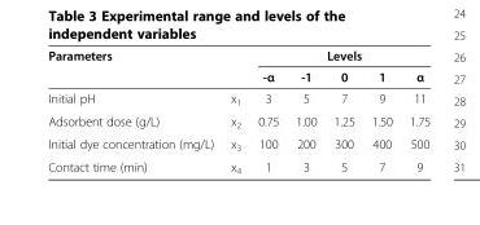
<table><thead><tr><td rowspan="2" colspan="2">Parameters</td><td colspan="5">Levels</td></tr><tr><td rowspan="2">-α 3</td><td rowspan="2">-1 5</td><td rowspan="2">0 7</td><td rowspan="2">1 9</td><td rowspan="2">α 11</td></tr><tr><td>Initial pH</td><td>x<sub>1</sub></td></tr></thead><tbody><tr><td>Adsorbent dose (g/L)</td><td>x<sub>2</sub></td><td>0.75</td><td>1.00</td><td>1.25</td><td>1.50</td><td>1.75</td></tr><tr><td>Initial dye concentration (mg/L)</td><td>x<sub>3</sub></td><td>100</td><td>200</td><td>300</td><td>400</td><td>500</td></tr><tr><td>Contact time (min)</td><td>x<sub>4</sub></td><td>1</td><td>3</td><td>5</td><td>7</td><td>9</td></tr></tbody></table>